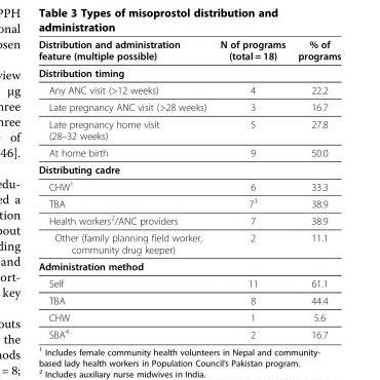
<table><thead><tr><td>Distribution and administration feature (multiple possible)</td><td>N of programs (total = 18)</td><td>% of programs</td></tr></thead><tbody><tr><td colspan="3">Distribution timing</td></tr><tr><td>Any ANC visit (&gt;12 weeks)</td><td>4</td><td>22.2</td></tr><tr><td>Late pregnancy ANC visit (&gt;28 weeks)</td><td>3</td><td>16.7</td></tr><tr><td>Late pregnancy home visit (28–32 weeks)</td><td>5</td><td>27.8</td></tr><tr><td>At home birth</td><td>9</td><td>50.0</td></tr><tr><td colspan="3">Distributing cadre</td></tr><tr><td>CHW<sup>1</sup></td><td>6</td><td>33.3</td></tr><tr><td>TBA</td><td>7<sup>3</sup></td><td>38.9</td></tr><tr><td>Health workers<sup>2</sup>/ANC providers</td><td>7</td><td>38.9</td></tr><tr><td>Other (family planning field worker, community drug keeper)</td><td>2</td><td>11.1</td></tr><tr><td colspan="3">Administration method</td></tr><tr><td>Self</td><td>11</td><td>61.1</td></tr><tr><td>TBA</td><td>8</td><td>44.4</td></tr><tr><td>CHW</td><td>1</td><td>5.6</td></tr><tr><td>SBA<sup>4</sup></td><td>2</td><td>16.7</td></tr></tbody></table>